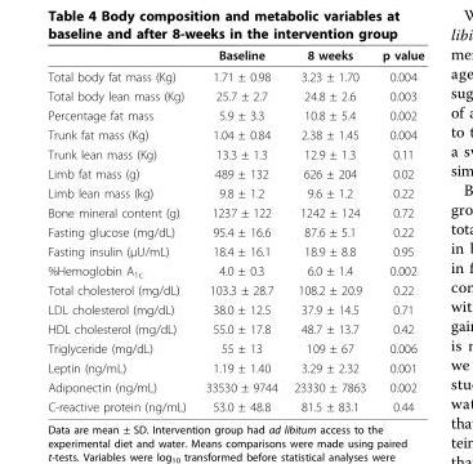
<table><thead><tr><td></td><td>Baseline</td><td>8 weeks</td><td>p value</td></tr></thead><tbody><tr><td>Total body fat mass (Kg)</td><td>1.71 ± 0.98</td><td>3.23 ± 1.70</td><td>0.004</td></tr><tr><td>Total body lean mass (Kg)</td><td>25.7 ± 2.7</td><td>24.8 ± 2.6</td><td>0.003</td></tr><tr><td>Percentage fat mass</td><td>5.9 ± 3.3</td><td>10.8 ± 5.4</td><td>0.002</td></tr><tr><td>Trunk fat mass (Kg)</td><td>1.04 ± 0.84</td><td>2.38 ± 1.45</td><td>0.004</td></tr><tr><td>Trunk lean mass (Kg)</td><td>13.3 ± 1.3</td><td>12.9 ± 1.3</td><td>0.11</td></tr><tr><td>Limb fat mass (g)</td><td>489 ± 132</td><td>626 ± 204</td><td>0.02</td></tr><tr><td>Limb lean mass (kg)</td><td>9.8 ± 1.2</td><td>9.6 ± 1.2</td><td>0.22</td></tr><tr><td>Bone mineral content (g)</td><td>1237 ± 122</td><td>1242 ± 124</td><td>0.72</td></tr><tr><td>Fasting glucose (mg/dL)</td><td>95.4 ± 16.6</td><td>87.6 ± 5.1</td><td>0.22</td></tr><tr><td>Fasting insulin (μU/mL)</td><td>18.4 ± 16.1</td><td>18.9 ± 8.8</td><td>0.95</td></tr><tr><td>%Hemoglobin A<sub>1c</sub></td><td>4.0 ± 0.3</td><td>6.0 ± 1.4</td><td>0.002</td></tr><tr><td>Total cholesterol (mg/dL)</td><td>103.3 ± 28.7</td><td>108.2 ± 20.9</td><td>0.22</td></tr><tr><td>LDL cholesterol (mg/dL)</td><td>38.0 ± 12.5</td><td>37.9 ± 14.5</td><td>0.71</td></tr><tr><td>HDL cholesterol (mg/dL)</td><td>55.0 ± 17.8</td><td>48.7 ± 13.7</td><td>0.42</td></tr><tr><td>Triglyceride (mg/dL)</td><td>55 ± 13</td><td>109 ± 67</td><td>0.006</td></tr><tr><td>Leptin (ng/mL)</td><td>1.19 ± 1.40</td><td>3.29 ± 2.32</td><td>0.001</td></tr><tr><td>Adiponectin (ng/mL)</td><td>33530 ± 9744</td><td>23330 ± 7863</td><td>0.002</td></tr><tr><td>C-reactive protein (ng/mL)</td><td>53.0 ± 48.8</td><td>81.5 ± 83.1</td><td>0.44</td></tr></tbody></table>